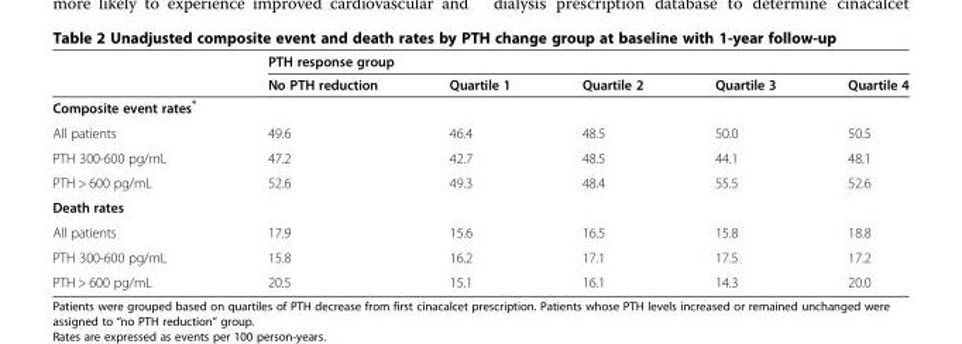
<table><thead><tr><td rowspan="2"></td><td colspan="5">PTH response group</td></tr><tr><td>No PTH reduction</td><td>Quartile 1</td><td>Quartile 2</td><td>Quartile 3</td><td>Quartile 4</td></tr></thead><tbody><tr><td colspan="6">Composite event rates*</td></tr><tr><td>All patients</td><td>49.6</td><td>46.4</td><td>48.5</td><td>50.0</td><td>50.5</td></tr><tr><td>PTH 300-600 pg/mL</td><td>47.2</td><td>42.7</td><td>48.5</td><td>44.1</td><td>48.1</td></tr><tr><td>PTH &gt; 600 pg/mL</td><td>52.6</td><td>49.3</td><td>48.4</td><td>55.5</td><td>52.6</td></tr><tr><td colspan="6">Death rates</td></tr><tr><td>All patients</td><td>17.9</td><td>15.6</td><td>16.5</td><td>15.8</td><td>18.8</td></tr><tr><td>PTH 300-600 pg/mL</td><td>15.8</td><td>16.2</td><td>17.1</td><td>17.5</td><td>17.2</td></tr><tr><td>PTH &gt; 600 pg/mL</td><td>20.5</td><td>15.1</td><td>16.1</td><td>14.3</td><td>20.0</td></tr></tbody></table>